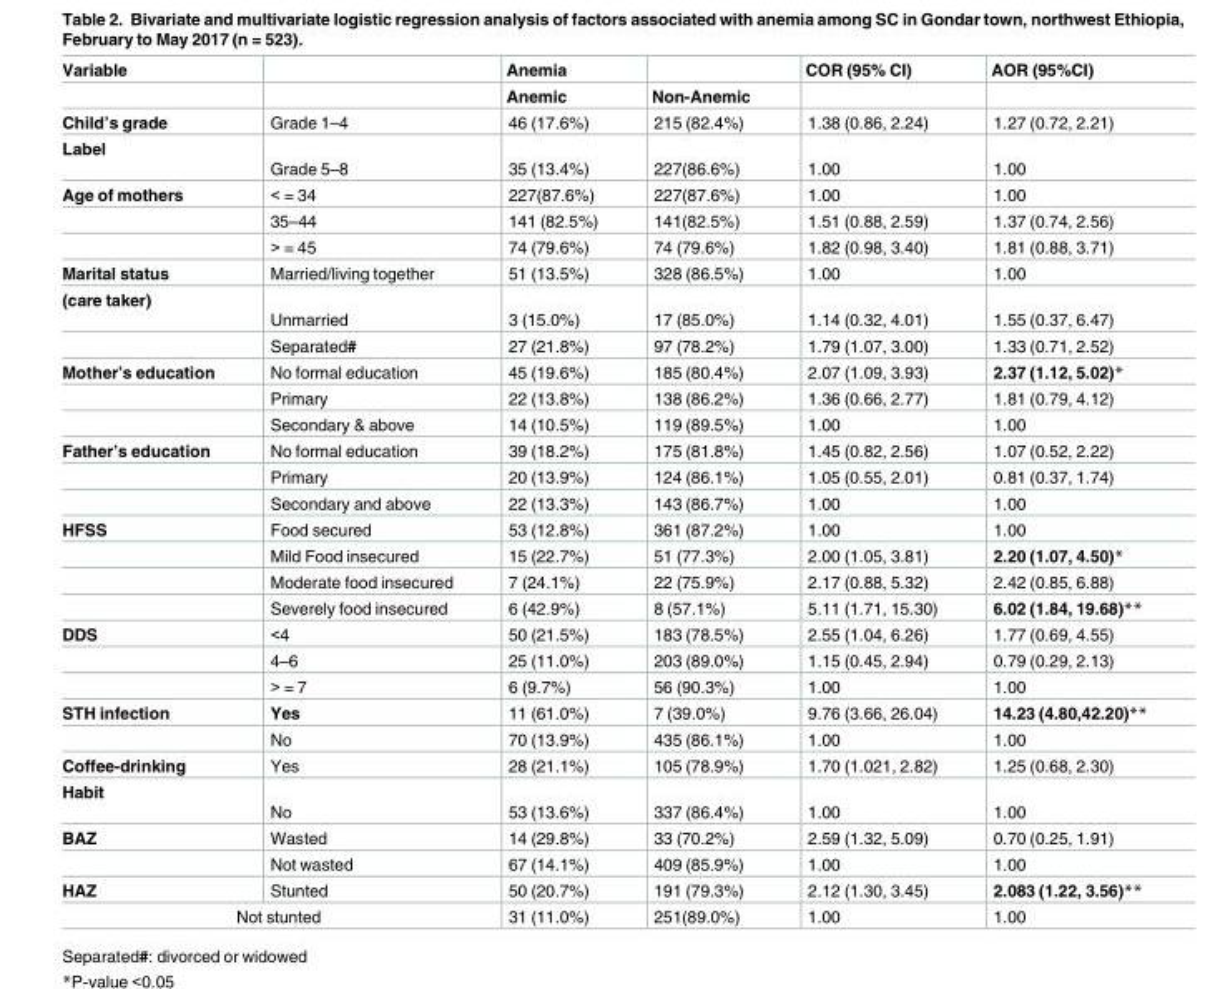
<table><thead><tr><td rowspan="2">Variable</td><td rowspan="2"></td><td rowspan="2">Anemia Anemic</td><td rowspan="2">Non-Anemic</td><td rowspan="2">COR (95% CI)</td><td rowspan="2">AOR (95%CI)</td></tr><tr></tr></thead><tbody><tr><td>Child’s grade</td><td>Grade 1–4</td><td>46 (17.6%)</td><td>215 (82.4%)</td><td>1.38 (0.86, 2.24)</td><td>1.27 (0.72, 2.21)</td></tr><tr><td>Label</td><td>Grade 5–8</td><td>35 (13.4%)</td><td>227(86.6%)</td><td>1.00</td><td>1.00</td></tr><tr><td rowspan="3">Age of mothers</td><td>&lt; = 34</td><td>227(87.6%)</td><td>227(87.6%)</td><td>1.00</td><td>1.00</td></tr><tr><td>35–44</td><td>141 (82.5%)</td><td>141(82.5%)</td><td>1.51 (0.88, 2.59)</td><td>1.37 (0.74, 2.56)</td></tr><tr><td>&gt; = 45</td><td>74 (79.6%)</td><td>74 (79.6%)</td><td>1.82 (0.98, 3.40)</td><td>1.81 (0.88, 3.71)</td></tr><tr><td>Marital status</td><td>Married/living together</td><td>51 (13.5%)</td><td>328 (86.5%)</td><td>1.00</td><td>1.00</td></tr><tr><td rowspan="2">(care taker)</td><td>Unmarried</td><td>3 (15.0%)</td><td>17 (85.0%)</td><td>1.14 (0.32, 4.01)</td><td>1.55 (0.37, 6.47)</td></tr><tr><td>Separated#</td><td>27 (21.8%)</td><td>97 (78.2%)</td><td>1.79 (1.07, 3.00)</td><td>1.33 (0.71, 2.52)</td></tr><tr><td rowspan="3">Mother’s education</td><td>No formal education</td><td>45 (19.6%)</td><td>185 (80.4%)</td><td>2.07 (1.09, 3.93)</td><td>2.37 (1.12, 5.02)*</td></tr><tr><td>Primary</td><td>22 (13.8%)</td><td>138 (86.2%)</td><td>1.36 (0.66, 2.77)</td><td>1.81 (0.79, 4.12)</td></tr><tr><td>Secondary &amp; above</td><td>14 (10.5%)</td><td>119 (89.5%)</td><td>1.00</td><td>1.00</td></tr><tr><td rowspan="3">Father’s education</td><td>No formal education</td><td>39 (18.2%)</td><td>175 (81.8%)</td><td>1.45 (0.82, 2.56)</td><td>1.07 (0.52, 2.22)</td></tr><tr><td>Primary</td><td>20 (13.9%)</td><td>124 (86.1%)</td><td>1.05 (0.55, 2.01)</td><td>0.81 (0.37, 1.74)</td></tr><tr><td>Secondary and above</td><td>22 (13.3%)</td><td>143 (86.7%)</td><td>1.00</td><td>1.00</td></tr><tr><td rowspan="4">HFSS</td><td>Food secured</td><td>53 (12.8%)</td><td>361 (87.2%)</td><td>1.00</td><td>1.00</td></tr><tr><td>Mild Food insecured</td><td>15 (22.7%)</td><td>51 (77.3%)</td><td>2.00 (1.05, 3.81)</td><td>2.20 (1.07, 4.50)*</td></tr><tr><td>Moderate food insecured</td><td>7 (24.1%)</td><td>22 (75.9%)</td><td>2.17 (0.88, 5.32)</td><td>2.42 (0.85, 6.88)</td></tr><tr><td>Severely food insecured</td><td>6 (42.9%)</td><td>8 (57.1%)</td><td>5.11 (1.71, 15.30)</td><td>6.02 (1.84, 19.68)**</td></tr><tr><td rowspan="3">DDS</td><td>&lt;4</td><td>50 (21.5%)</td><td>183 (78.5%)</td><td>2.55 (1.04, 6.26)</td><td>1.77 (0.69, 4.55)</td></tr><tr><td>4–6</td><td>25 (11.0%)</td><td>203 (89.0%)</td><td>1.15 (0.45, 2.94)</td><td>0.79 (0.29, 2.13)</td></tr><tr><td>&gt; = 7</td><td>6 (9.7%)</td><td>56 (90.3%)</td><td>1.00</td><td>1.00</td></tr><tr><td rowspan="2">STH infection</td><td>Yes</td><td>11 (61.0%)</td><td>7 (39.0%)</td><td>9.76 (3.66, 26.04)</td><td>14.23 (4.80,42.20)**</td></tr><tr><td>No</td><td>70 (13.9%)</td><td>435 (86.1%)</td><td>1.00</td><td>1.00</td></tr><tr><td>Coffee-drinking</td><td>Yes</td><td>28 (21.1%)</td><td>105 (78.9%)</td><td>1.70 (1.021, 2.82)</td><td>1.25 (0.68, 2.30)</td></tr><tr><td>Habit</td><td>No</td><td>53 (13.6%)</td><td>337 (86.4%)</td><td>1.00</td><td>1.00</td></tr><tr><td rowspan="2">BAZ</td><td>Wasted</td><td>14 (29.8%)</td><td>33 (70.2%)</td><td>2.59 (1.32, 5.09)</td><td>0.70 (0.25, 1.91)</td></tr><tr><td>Not wasted</td><td>67 (14.1%)</td><td>409 (85.9%)</td><td>1.00</td><td>1.00</td></tr><tr><td>HAZ</td><td>Stunted</td><td>50 (20.7%)</td><td>191 (79.3%)</td><td>2.12 (1.30, 3.45)</td><td>2.083 (1.22, 3.56)**</td></tr><tr><td colspan="2">Not stunted</td><td>31 (11.0%)</td><td>251(89.0%)</td><td>1.00</td><td>1.00</td></tr></tbody></table>